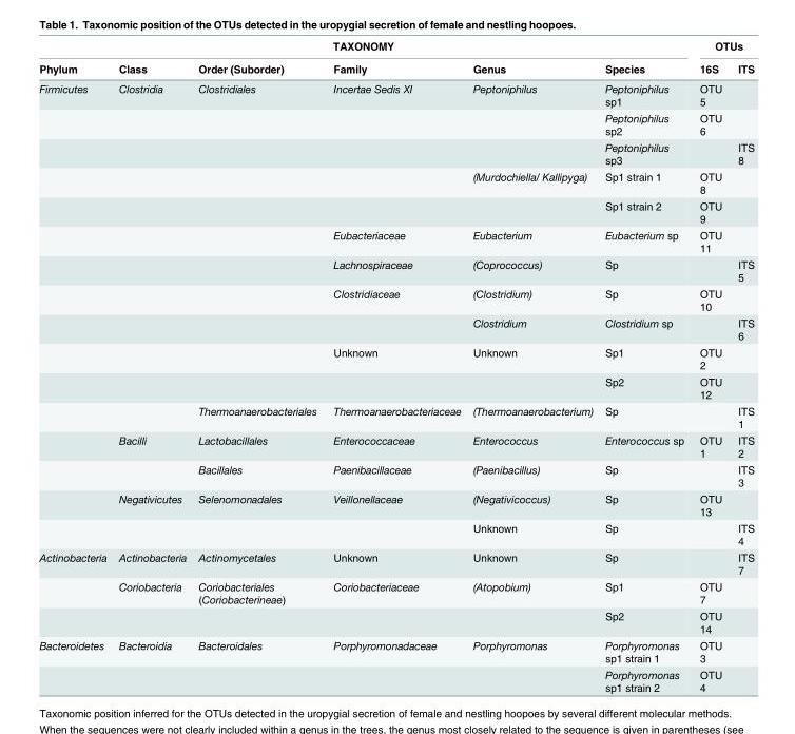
<table><thead><tr><td colspan="6">TAXONOMY</td><td colspan="2">OTUs</td></tr><tr><td>Phylum</td><td>Class</td><td>Order (Suborder)</td><td>Family</td><td>Genus</td><td>Species</td><td>16S</td><td>ITS</td></tr></thead><tbody><tr><td rowspan="16">Firmicutes</td><td>Clostridia</td><td>Clostridiales</td><td>Incertae Sedis XI</td><td>Peptoniphilus</td><td>Peptoniphilus sp1</td><td>OTU 5</td><td></td></tr><tr><td></td><td></td><td></td><td></td><td>Peptoniphilus sp2</td><td>OTU 6</td><td></td></tr><tr><td></td><td></td><td></td><td></td><td>Peptoniphilus sp3</td><td></td><td>ITS 8</td></tr><tr><td></td><td></td><td></td><td>(Murdochiella/ Kallipyga)</td><td>Sp1 strain 1</td><td>OTU 8</td><td></td></tr><tr><td></td><td></td><td></td><td></td><td>Sp1 strain 2</td><td>OTU 9</td><td></td></tr><tr><td></td><td></td><td>Eubacteriaceae</td><td>Eubacterium</td><td>Eubacterium sp</td><td>OTU 11</td><td></td></tr><tr><td></td><td></td><td>Lachnospiraceae</td><td>(Coprococcus)</td><td>Sp</td><td></td><td>ITS 5</td></tr><tr><td></td><td></td><td>Clostridiaceae</td><td>(Clostridium)</td><td>Sp</td><td>OTU 10</td><td></td></tr><tr><td></td><td></td><td></td><td>Clostridium</td><td>Clostridium sp</td><td></td><td>ITS 6</td></tr><tr><td></td><td></td><td>Unknown</td><td>Unknown</td><td>Sp1</td><td>OTU 2</td><td></td></tr><tr><td></td><td></td><td></td><td></td><td>Sp2</td><td>OTU 12</td><td></td></tr><tr><td></td><td>Thermoanaerobacteriales</td><td>Thermoanaerobacteriaceae</td><td>(Thermoanaerobacterium)</td><td>Sp</td><td></td><td>ITS 1</td></tr><tr><td>Bacilli</td><td>Lactobacillales</td><td>Enterococcaceae</td><td>Enterococcus</td><td>Enterococcus sp</td><td>OTU 1</td><td>ITS 2</td></tr><tr><td></td><td>Bacillales</td><td>Paenibacillaceae</td><td>(Paenibacillus)</td><td>Sp</td><td></td><td>ITS 3</td></tr><tr><td>Negativicutes</td><td>Selenomonadales</td><td>Veillonellaceae</td><td>(Negativicoccus)</td><td>Sp</td><td>OTU 13</td><td></td></tr><tr><td></td><td></td><td></td><td>Unknown</td><td>Sp</td><td></td><td>ITS 4</td></tr><tr><td rowspan="3">Actinobacteria</td><td>Actinobacteria</td><td>Actinomycetales</td><td>Unknown</td><td>Unknown</td><td>Sp</td><td></td><td>ITS 7</td></tr><tr><td>Coriobacteria</td><td>Coriobacteriales (Coriobacterineae)</td><td>Coriobacteriaceae</td><td>(Atopobium)</td><td>Sp1</td><td>OTU 7</td><td></td></tr><tr><td></td><td></td><td></td><td></td><td>Sp2</td><td>OTU 14</td><td></td></tr><tr><td rowspan="2">Bacteroidetes</td><td>Bacteroidia</td><td>Bacteroidales</td><td>Porphyromonadaceae</td><td>Porphyromonas</td><td>Porphyromonas sp1 strain 1</td><td>OTU 3</td><td></td></tr><tr><td></td><td></td><td></td><td></td><td>Porphyromonas sp1 strain 2</td><td>OTU 4</td><td></td></tr></tbody></table>